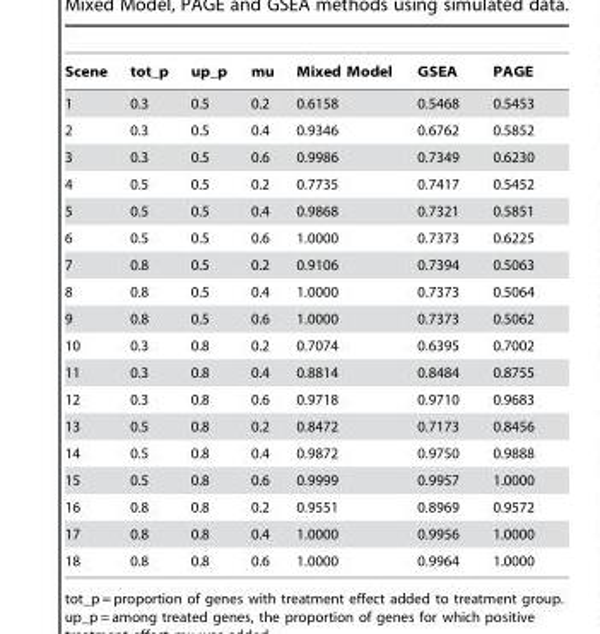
<table><thead><tr><td>Scene</td><td>tot_p</td><td>up_p</td><td>mu</td><td>Mixed Model</td><td>GSEA</td><td>PAGE</td></tr></thead><tbody><tr><td>1</td><td>0.3</td><td>0.5</td><td>0.2</td><td>0.6158</td><td>0.5468</td><td>0.5453</td></tr><tr><td>2</td><td>0.3</td><td>0.5</td><td>0.4</td><td>0.9346</td><td>0.6762</td><td>0.5852</td></tr><tr><td>3</td><td>0.3</td><td>0.5</td><td>0.6</td><td>0.9986</td><td>0.7349</td><td>0.6230</td></tr><tr><td>4</td><td>0.5</td><td>0.5</td><td>0.2</td><td>0.7735</td><td>0.7417</td><td>0.5452</td></tr><tr><td>5</td><td>0.5</td><td>0.5</td><td>0.4</td><td>0.9868</td><td>0.7321</td><td>0.5851</td></tr><tr><td>6</td><td>0.5</td><td>0.5</td><td>0.6</td><td>1.0000</td><td>0.7373</td><td>0.6225</td></tr><tr><td>7</td><td>0.8</td><td>0.5</td><td>0.2</td><td>0.9106</td><td>0.7394</td><td>0.5063</td></tr><tr><td>8</td><td>0.8</td><td>0.5</td><td>0.4</td><td>1.0000</td><td>0.7373</td><td>0.5064</td></tr><tr><td>9</td><td>0.8</td><td>0.5</td><td>0.6</td><td>1.0000</td><td>0.7373</td><td>0.5062</td></tr><tr><td>10</td><td>0.3</td><td>0.8</td><td>0.2</td><td>0.7074</td><td>0.6395</td><td>0.7002</td></tr><tr><td>11</td><td>0.3</td><td>0.8</td><td>0.4</td><td>0.8814</td><td>0.8484</td><td>0.8755</td></tr><tr><td>12</td><td>0.3</td><td>0.8</td><td>0.6</td><td>0.9718</td><td>0.9710</td><td>0.9683</td></tr><tr><td>13</td><td>0.5</td><td>0.8</td><td>0.2</td><td>0.8472</td><td>0.7173</td><td>0.8456</td></tr><tr><td>14</td><td>0.5</td><td>0.8</td><td>0.4</td><td>0.9872</td><td>0.9750</td><td>0.9888</td></tr><tr><td>15</td><td>0.5</td><td>0.8</td><td>0.6</td><td>0.9999</td><td>0.9957</td><td>1.0000</td></tr><tr><td>16</td><td>0.8</td><td>0.8</td><td>0.2</td><td>0.9551</td><td>0.8969</td><td>0.9572</td></tr><tr><td>17</td><td>0.8</td><td>0.8</td><td>0.4</td><td>1.0000</td><td>0.9956</td><td>1.0000</td></tr><tr><td>18</td><td>0.8</td><td>0.8</td><td>0.6</td><td>1.0000</td><td>0.9964</td><td>1.0000</td></tr></tbody></table>